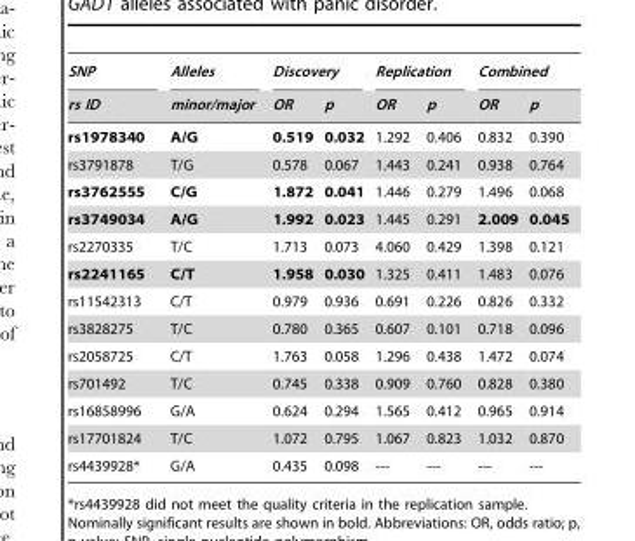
<table><thead><tr><td rowspan="2">SNP rs ID</td><td rowspan="2">Alleles minor/major</td><td colspan="2">Discovery</td><td colspan="2">Replication</td><td colspan="2">Combined</td></tr><tr><td>OR</td><td>p</td><td>OR</td><td>p</td><td>OR</td><td>p</td></tr></thead><tbody><tr><td>rs1978340</td><td>A/G</td><td>0.519</td><td>0.032</td><td>1.292</td><td>0.406</td><td>0.832</td><td>0.390</td></tr><tr><td>rs3791878</td><td>T/G</td><td>0.578</td><td>0.067</td><td>1.443</td><td>0.241</td><td>0.938</td><td>0.764</td></tr><tr><td>rs3762555</td><td>C/G</td><td>1.872</td><td>0.041</td><td>1.446</td><td>0.279</td><td>1.496</td><td>0.068</td></tr><tr><td>rs3749034</td><td>A/G</td><td>1.992</td><td>0.023</td><td>1.445</td><td>0.291</td><td>2.009</td><td>0.045</td></tr><tr><td>rs2270335</td><td>T/C</td><td>1.713</td><td>0.073</td><td>4.060</td><td>0.429</td><td>1.398</td><td>0.121</td></tr><tr><td>rs2241165</td><td>C/T</td><td>1.958</td><td>0.030</td><td>1.325</td><td>0.411</td><td>1.483</td><td>0.076</td></tr><tr><td>rs11542313</td><td>C/T</td><td>0.979</td><td>0.936</td><td>0.691</td><td>0.226</td><td>0.826</td><td>0.332</td></tr><tr><td>rs3828275</td><td>T/C</td><td>0.780</td><td>0.365</td><td>0.607</td><td>0.101</td><td>0.718</td><td>0.096</td></tr><tr><td>rs2058725</td><td>C/T</td><td>1.763</td><td>0.058</td><td>1.296</td><td>0.438</td><td>1.472</td><td>0.074</td></tr><tr><td>rs701492</td><td>T/C</td><td>0.745</td><td>0.338</td><td>0.909</td><td>0.760</td><td>0.828</td><td>0.380</td></tr><tr><td>rs16858996</td><td>G/A</td><td>0.624</td><td>0.294</td><td>1.565</td><td>0.412</td><td>0.965</td><td>0.914</td></tr><tr><td>rs17701824</td><td>T/C</td><td>1.072</td><td>0.795</td><td>1.067</td><td>0.823</td><td>1.032</td><td>0.870</td></tr><tr><td>rs4439928*</td><td>G/A</td><td>0.435</td><td>0.098</td><td>---</td><td>---</td><td>---</td><td>---</td></tr></tbody></table>